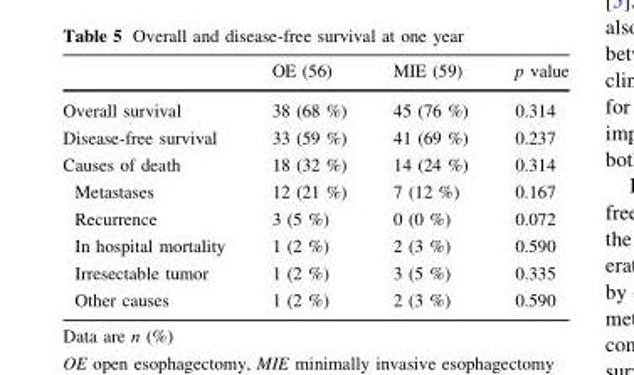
<table><thead><tr><td></td><td>OE (56)</td><td>MIE (59)</td><td>p value</td></tr></thead><tbody><tr><td>Overall survival</td><td>38 (68 %)</td><td>45 (76 %)</td><td>0.314</td></tr><tr><td>Disease-free survival</td><td>33 (59 %)</td><td>41 (69 %)</td><td>0.237</td></tr><tr><td>Causes of death</td><td>18 (32 %)</td><td>14 (24 %)</td><td>0.314</td></tr><tr><td>Metastases</td><td>12 (21 %)</td><td>7 (12 %)</td><td>0.167</td></tr><tr><td>Recurrence</td><td>3 (5 %)</td><td>0 (0 %)</td><td>0.072</td></tr><tr><td>In hospital mortality</td><td>1 (2 %)</td><td>2 (3 %)</td><td>0.590</td></tr><tr><td>Irresectable tumor</td><td>1 (2 %)</td><td>3 (5 %)</td><td>0.335</td></tr><tr><td>Other causes</td><td>1 (2 %)</td><td>2 (3 %)</td><td>0.590</td></tr></tbody></table>